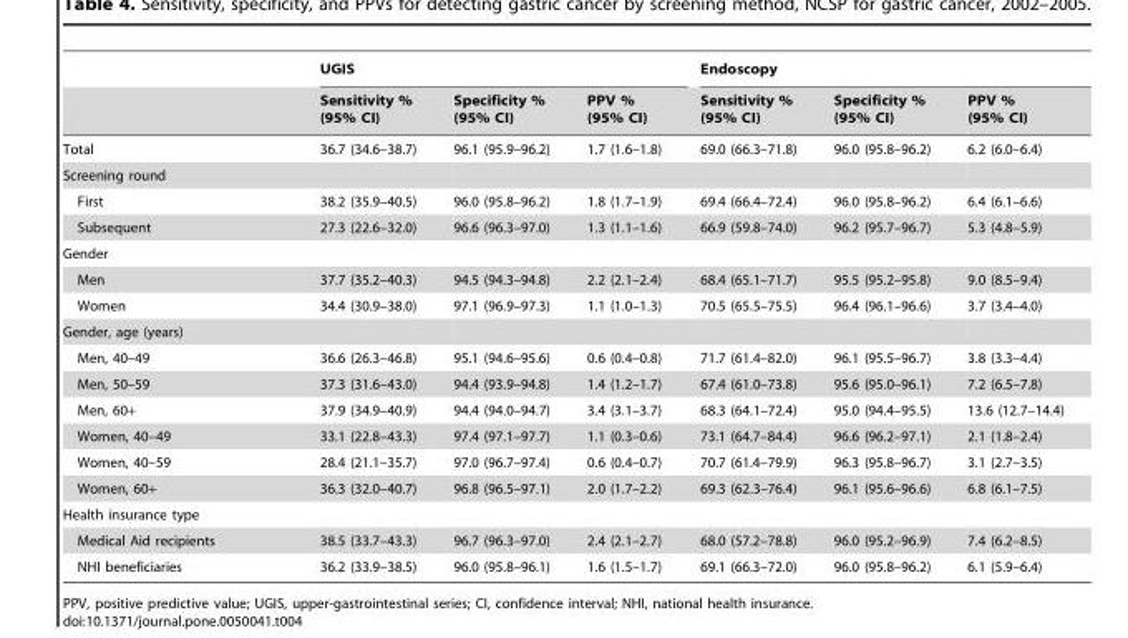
<table><thead><tr><td rowspan="2"></td><td colspan="3">UGIS</td><td colspan="3">Endoscopy</td></tr><tr><td>Sensitivity % (95% CI)</td><td>Specificity % (95% CI)</td><td>PPV % (95% CI)</td><td>Sensitivity % (95% CI)</td><td>Specificity % (95% CI)</td><td>PPV % (95% CI)</td></tr></thead><tbody><tr><td>Total</td><td>36.7 (34.6–38.7)</td><td>96.1 (95.9–96.2)</td><td>1.7 (1.6–1.8)</td><td>69.0 (66.3–71.8)</td><td>96.0 (95.8–96.2)</td><td>6.2 (6.0–6.4)</td></tr><tr><td colspan="7">Screening round</td></tr><tr><td>First</td><td>38.2 (35.9–40.5)</td><td>96.0 (95.8–96.2)</td><td>1.8 (1.7–1.9)</td><td>69.4 (66.4–72.4)</td><td>96.0 (95.8–96.2)</td><td>6.4 (6.1–6.6)</td></tr><tr><td>Subsequent</td><td>27.3 (22.6–32.0)</td><td>96.6 (96.3–97.0)</td><td>1.3 (1.1–1.6)</td><td>66.9 (59.8–74.0)</td><td>96.2 (95.7–96.7)</td><td>5.3 (4.8–5.9)</td></tr><tr><td colspan="7">Gender</td></tr><tr><td>Men</td><td>37.7 (35.2–40.3)</td><td>94.5 (94.3–94.8)</td><td>2.2 (2.1–2.4)</td><td>68.4 (65.1–71.7)</td><td>95.5 (95.2–95.8)</td><td>9.0 (8.5–9.4)</td></tr><tr><td>Women</td><td>34.4 (30.9–38.0)</td><td>97.1 (96.9–97.3)</td><td>1.1 (1.0–1.3)</td><td>70.5 (65.5–75.5)</td><td>96.4 (96.1–96.6)</td><td>3.7 (3.4–4.0)</td></tr><tr><td colspan="7">Gender, age (years)</td></tr><tr><td>Men, 40–49</td><td>36.6 (26.3–46.8)</td><td>95.1 (94.6–95.6)</td><td>0.6 (0.4–0.8)</td><td>71.7 (61.4–82.0)</td><td>96.1 (95.5–96.7)</td><td>3.8 (3.3–4.4)</td></tr><tr><td>Men, 50–59</td><td>37.3 (31.6–43.0)</td><td>94.4 (93.9–94.8)</td><td>1.4 (1.2–1.7)</td><td>67.4 (61.0–73.8)</td><td>95.6 (95.0–96.1)</td><td>7.2 (6.5–7.8)</td></tr><tr><td>Men, 60+</td><td>37.9 (34.9–40.9)</td><td>94.4 (94.0–94.7)</td><td>3.4 (3.1–3.7)</td><td>68.3 (64.1–72.4)</td><td>95.0 (94.4–95.5)</td><td>13.6 (12.7–14.4)</td></tr><tr><td>Women, 40–49</td><td>33.1 (22.8–43.3)</td><td>97.4 (97.1–97.7)</td><td>1.1 (0.3–0.6)</td><td>73.1 (64.7–84.4)</td><td>96.6 (96.2–97.1)</td><td>2.1 (1.8–2.4)</td></tr><tr><td>Women, 40–59</td><td>28.4 (21.1–35.7)</td><td>97.0 (96.7–97.4)</td><td>0.6 (0.4–0.7)</td><td>70.7 (61.4–79.9)</td><td>96.3 (95.8–96.7)</td><td>3.1 (2.7–3.5)</td></tr><tr><td>Women, 60+</td><td>36.3 (32.0–40.7)</td><td>96.8 (96.5–97.1)</td><td>2.0 (1.7–2.2)</td><td>69.3 (62.3–76.4)</td><td>96.1 (95.6–96.6)</td><td>6.8 (6.1–7.5)</td></tr><tr><td colspan="7">Health insurance type</td></tr><tr><td>Medical Aid recipients</td><td>38.5 (33.7–43.3)</td><td>96.7 (96.3–97.0)</td><td>2.4 (2.1–2.7)</td><td>68.0 (57.2–78.8)</td><td>96.0 (95.2–96.9)</td><td>7.4 (6.2–8.5)</td></tr><tr><td>NHI beneficiaries</td><td>36.2 (33.9–38.5)</td><td>96.0 (95.8–96.1)</td><td>1.6 (1.5–1.7)</td><td>69.1 (66.3–72.0)</td><td>96.0 (95.8–96.2)</td><td>6.1 (5.9–6.4)</td></tr></tbody></table>